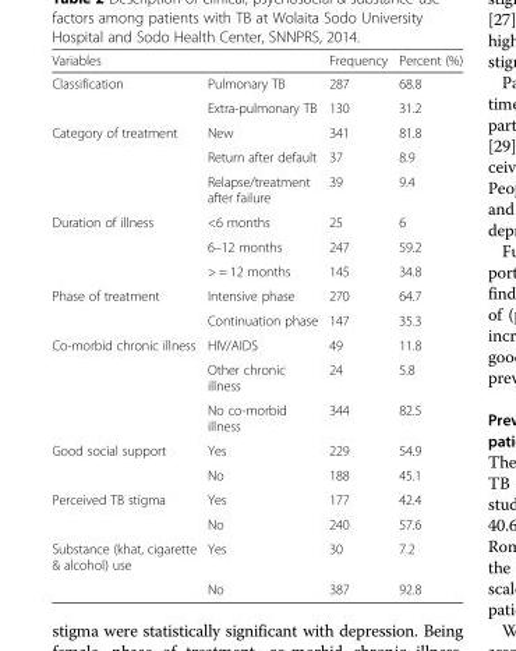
<table><thead><tr><td colspan="2">Variables</td><td rowspan="2">Frequency 287</td><td rowspan="2">Percent (%) 68.8</td></tr><tr><td>Classification</td><td>Pulmonary TB</td></tr></thead><tbody><tr><td></td><td>Extra-pulmonary TB</td><td>130</td><td>31.2</td></tr><tr><td rowspan="3">Category of treatment</td><td>New</td><td>341</td><td>81.8</td></tr><tr><td>Return after default</td><td>37</td><td>8.9</td></tr><tr><td>Relapse/treatment after failure</td><td>39</td><td>9.4</td></tr><tr><td rowspan="3">Duration of illness</td><td>&lt;6 months</td><td>25</td><td>6</td></tr><tr><td>6–12 months</td><td>247</td><td>59.2</td></tr><tr><td>&gt; = 12 months</td><td>145</td><td>34.8</td></tr><tr><td rowspan="2">Phase of treatment</td><td>Intensive phase</td><td>270</td><td>64.7</td></tr><tr><td>Continuation phase</td><td>147</td><td>35.3</td></tr><tr><td rowspan="3">Co-morbid chronic illness</td><td>HIV/AIDS</td><td>49</td><td>11.8</td></tr><tr><td>Other chronic illness</td><td>24</td><td>5.8</td></tr><tr><td>No co-morbid illness</td><td>344</td><td>82.5</td></tr><tr><td rowspan="2">Good social support</td><td>Yes</td><td>229</td><td>54.9</td></tr><tr><td>No</td><td>188</td><td>45.1</td></tr><tr><td rowspan="2">Perceived TB stigma</td><td>Yes</td><td>177</td><td>42.4</td></tr><tr><td>No</td><td>240</td><td>57.6</td></tr><tr><td rowspan="2">Substance (khat, cigarette &amp; alcohol) use</td><td>Yes</td><td>30</td><td>7.2</td></tr><tr><td>No</td><td>387</td><td>92.8</td></tr></tbody></table>